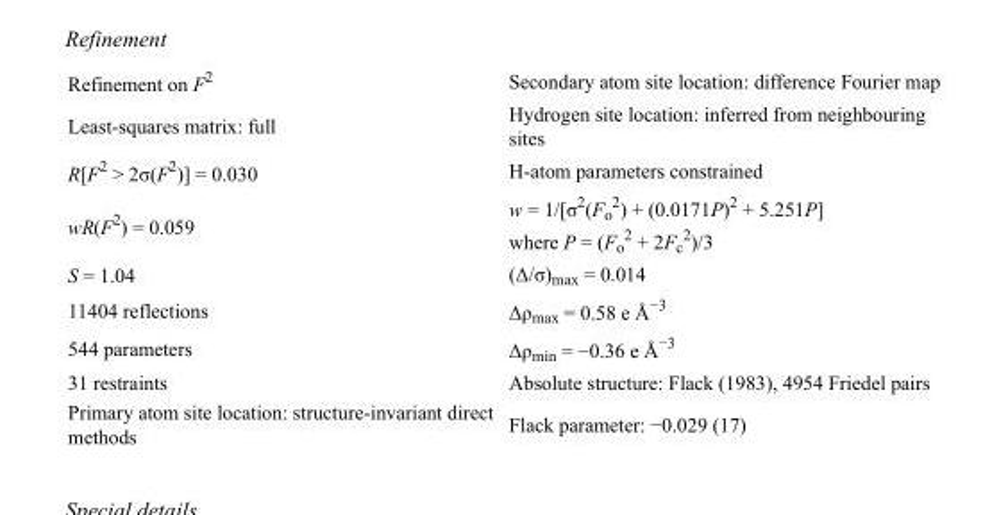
<table><tbody><tr><td>Refinement on F<sup>2</sup></td><td>Secondary atom site location: difference Fourier map</td></tr><tr><td>Least-squares matrix: full</td><td>Hydrogen site location: inferred from neighbouring sites</td></tr><tr><td>R[F<sup>2</sup> &gt; 2σ(F<sup>2</sup>)] = 0.030</td><td>H-atom parameters constrained</td></tr><tr><td>wR(F<sup>2</sup>) = 0.059</td><td>w = 1/[σ<sup>2</sup>(F<sub>o</sub> <sup>2</sup>) + (0.0171P)<sup>2</sup> + 5.251P] where P = (F<sub>o</sub> <sup>2</sup> + 2F<sub>c</sub> <sup>2</sup>)/3</td></tr><tr><td>S = 1.04</td><td>(Δ/σ)<sub>max</sub> = 0.014</td></tr><tr><td>11404 reflections</td><td>Δρ<sub>max</sub> = 0.58 e Å<sup>−3</sup></td></tr><tr><td>544 parameters</td><td>Δρ<sub>min</sub> = −0.36 e Å<sup>−3</sup></td></tr><tr><td>31 restraints</td><td>Absolute structure: Flack (1983), 4954 Friedel pairs</td></tr><tr><td>Primary atom site location: structure-invariant direct methods</td><td>Flack parameter: −0.029 (17)</td></tr></tbody></table>